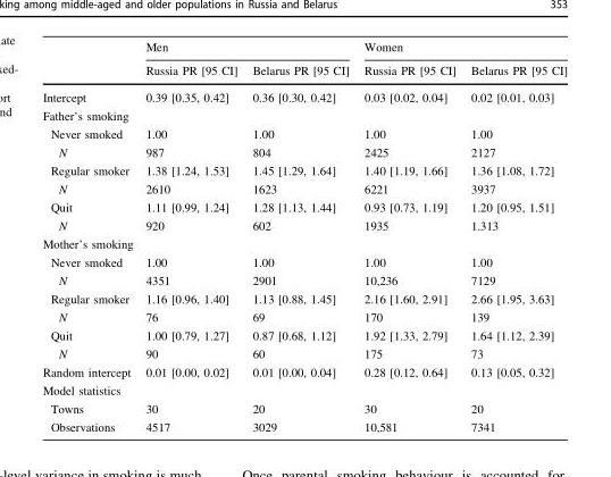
<table><thead><tr><td rowspan="2"></td><td colspan="2">Men</td><td colspan="2">Women</td></tr><tr><td>Russia PR [95 CI]</td><td>Belarus PR [95 CI]</td><td>Russia PR [95 CI]</td><td>Belarus PR [95 CI]</td></tr></thead><tbody><tr><td>Intercept</td><td>0.39 [0.35, 0.42]</td><td>0.36 [0.30, 0.42]</td><td>0.03 [0.02, 0.04]</td><td>0.02 [0.01, 0.03]</td></tr><tr><td colspan="5">Father’s smoking</td></tr><tr><td>Never smoked</td><td>1.00</td><td>1.00</td><td>1.00</td><td>1.00</td></tr><tr><td>N</td><td>987</td><td>804</td><td>2425</td><td>2127</td></tr><tr><td>Regular smoker</td><td>1.38 [1.24, 1.53]</td><td>1.45 [1.29, 1.64]</td><td>1.40 [1.19, 1.66]</td><td>1.36 [1.08, 1.72]</td></tr><tr><td>N</td><td>2610</td><td>1623</td><td>6221</td><td>3937</td></tr><tr><td>Quit</td><td>1.11 [0.99, 1.24]</td><td>1.28 [1.13, 1.44]</td><td>0.93 [0.73, 1.19]</td><td>1.20 [0.95, 1.51]</td></tr><tr><td>N</td><td>920</td><td>602</td><td>1935</td><td>1.313</td></tr><tr><td colspan="5">Mother’s smoking</td></tr><tr><td>Never smoked</td><td>1.00</td><td>1.00</td><td>1.00</td><td>1.00</td></tr><tr><td>N</td><td>4351</td><td>2901</td><td>10,236</td><td>7129</td></tr><tr><td>Regular smoker</td><td>1.16 [0.96, 1.40]</td><td>1.13 [0.88, 1.45]</td><td>2.16 [1.60, 2.91]</td><td>2.66 [1.95, 3.63]</td></tr><tr><td>N</td><td>76</td><td>69</td><td>170</td><td>139</td></tr><tr><td>Quit</td><td>1.00 [0.79, 1.27]</td><td>0.87 [0.68, 1.12]</td><td>1.92 [1.33, 2.79]</td><td>1.64 [1.12, 2.39]</td></tr><tr><td>N</td><td>90</td><td>60</td><td>175</td><td>73</td></tr><tr><td>Random intercept</td><td>0.01 [0.00, 0.02]</td><td>0.01 [0.00, 0.04]</td><td>0.28 [0.12, 0.64]</td><td>0.13 [0.05, 0.32]</td></tr><tr><td colspan="5">Model statistics</td></tr><tr><td>Towns</td><td>30</td><td>20</td><td>30</td><td>20</td></tr><tr><td>Observations</td><td>4517</td><td>3029</td><td>10,581</td><td>7341</td></tr></tbody></table>